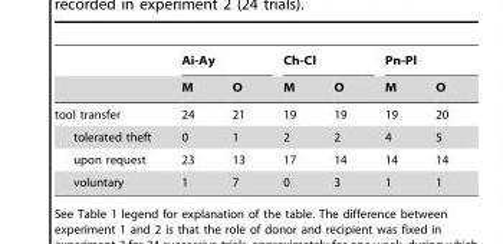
<table><thead><tr><td rowspan="2"></td><td colspan="2">Ai-Ay</td><td colspan="2">Ch-Cl</td><td colspan="2">Pn-Pl</td></tr><tr><td>M</td><td>O</td><td>M</td><td>O</td><td>M</td><td>O</td></tr></thead><tbody><tr><td>tool transfer</td><td>24</td><td>21</td><td>19</td><td>19</td><td>19</td><td>20</td></tr><tr><td>tolerated theft</td><td>0</td><td>1</td><td>2</td><td>2</td><td>4</td><td>5</td></tr><tr><td>upon request</td><td>23</td><td>13</td><td>17</td><td>14</td><td>14</td><td>14</td></tr><tr><td>voluntary</td><td>1</td><td>7</td><td>0</td><td>3</td><td>1</td><td>1</td></tr></tbody></table>